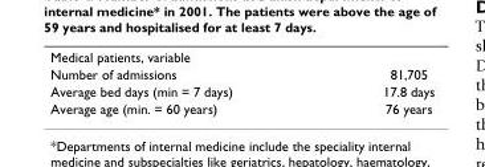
<table><tbody><tr><td colspan="2">Medical patients, variable</td></tr><tr><td>Number of admissions</td><td>81,705</td></tr><tr><td>Average bed days (min = 7 days)</td><td>17.8 days</td></tr><tr><td>Average age (min. = 60 years)</td><td>76 years</td></tr></tbody></table>